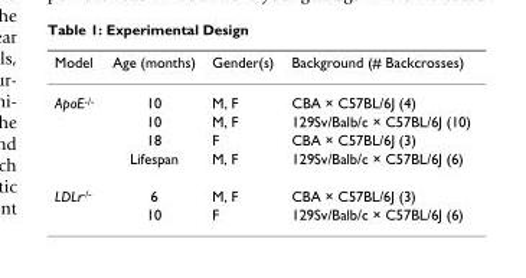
<table><thead><tr><td>Model</td><td>Age (months)</td><td>Gender(s)</td><td>Background (# Backcrosses)</td></tr></thead><tbody><tr><td rowspan="4">ApoE<sup>-/-</sup></td><td>10</td><td>M, F</td><td>CBA × C57BL/6J (4)</td></tr><tr><td>10</td><td>M, F</td><td>129Sv/Balb/c × C57BL/6J (10)</td></tr><tr><td>18</td><td>F</td><td>CBA × C57BL/6J (3)</td></tr><tr><td>Lifespan</td><td>M, F</td><td>129Sv/Balb/c × C57BL/6J (6)</td></tr><tr><td rowspan="2">LDLr<sup>-/-</sup></td><td>6</td><td>M, F</td><td>CBA × C57BL/6J (3)</td></tr><tr><td>10</td><td>F</td><td>129Sv/Balb/c × C57BL/6J (6)</td></tr></tbody></table>